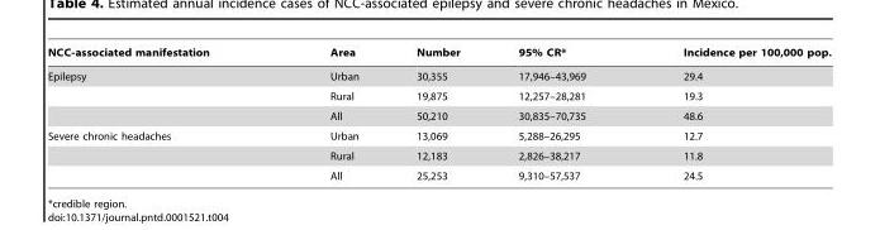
<table><thead><tr><td>NCC-associated manifestation</td><td>Area</td><td>Number</td><td>95% CR*</td><td>Incidence per 100,000 pop.</td></tr></thead><tbody><tr><td rowspan="3">Epilepsy</td><td>Urban</td><td>30,355</td><td>17,946–43,969</td><td>29.4</td></tr><tr><td>Rural</td><td>19,875</td><td>12,257–28,281</td><td>19.3</td></tr><tr><td>All</td><td>50,210</td><td>30,835–70,735</td><td>48.6</td></tr><tr><td rowspan="3">Severe chronic headaches</td><td>Urban</td><td>13,069</td><td>5,288–26,295</td><td>12.7</td></tr><tr><td>Rural</td><td>12,183</td><td>2,826–38,217</td><td>11.8</td></tr><tr><td>All</td><td>25,253</td><td>9,310–57,537</td><td>24.5</td></tr></tbody></table>